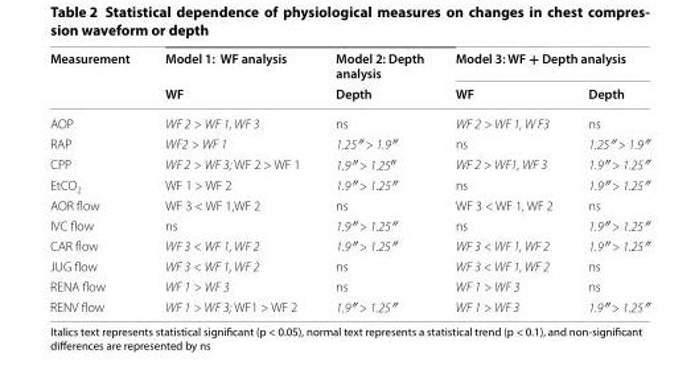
<table><thead><tr><td rowspan="2">Measurement</td><td rowspan="2">Model 1: WF analysis WF</td><td rowspan="2">Model 2: Depth analysis Depth</td><td colspan="2">Model 3: WF + Depth analysis</td></tr><tr><td>WF</td><td>Depth</td></tr></thead><tbody><tr><td>AOP</td><td>WF 2 &gt; WF 1, WF 3</td><td>ns</td><td>WF 2 &gt; WF 1, W F3</td><td>ns</td></tr><tr><td>RAP</td><td>WF2 &gt; WF 1</td><td>1.25″ &gt; 1.9″</td><td>ns</td><td>1.25″ &gt; 1.9″</td></tr><tr><td>CPP</td><td>WF 2 &gt; WF 3; WF 2 &gt; WF 1</td><td>1.9″ &gt; 1.25″</td><td>WF 2 &gt; WF1, WF 3</td><td>1.9″ &gt; 1.25″</td></tr><tr><td>EtCO<sub>2</sub></td><td>WF 1 &gt; WF 2</td><td>1.9″ &gt; 1.25″</td><td>ns</td><td>1.9″ &gt; 1.25″</td></tr><tr><td>AOR flow</td><td>WF 3 &lt; WF 1,WF 2</td><td>ns</td><td>WF 3 &lt; WF 1, WF 2</td><td>ns</td></tr><tr><td>IVC flow</td><td>ns</td><td>1.9″ &gt; 1.25″</td><td>ns</td><td>1.9″ &gt; 1.25″</td></tr><tr><td>CAR flow</td><td>WF 3 &lt; WF 1, WF 2</td><td>1.9″ &gt; 1.25″</td><td>WF 3 &lt; WF 1, WF 2</td><td>1.9″ &gt; 1.25″</td></tr><tr><td>JUG flow</td><td>WF 3 &lt; WF 1, WF 2</td><td>ns</td><td>WF 3 &lt; WF 1, WF 2</td><td>ns</td></tr><tr><td>RENA flow</td><td>WF 1 &gt; WF 3</td><td>ns</td><td>WF 1 &gt; WF 3</td><td>ns</td></tr><tr><td>RENV flow</td><td>WF 1 &gt; WF 3; WF1 &gt; WF 2</td><td>1.9″ &gt; 1.25″</td><td>WF 1 &gt; WF 3</td><td>1.9″ &gt; 1.25″</td></tr></tbody></table>